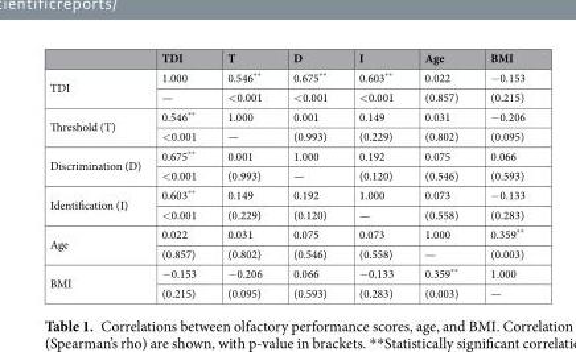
<table><thead><tr><td></td><td>TDI</td><td>T</td><td>D</td><td>I</td><td>Age</td><td>BMI</td></tr></thead><tbody><tr><td rowspan="2">TDI</td><td>1.000</td><td>0.546**</td><td>0.675**</td><td>0.603**</td><td>0.022</td><td>−0.153</td></tr><tr><td>—</td><td>&lt;0.001</td><td>&lt;0.001</td><td>&lt;0.001</td><td>(0.857)</td><td>(0.215)</td></tr><tr><td rowspan="2">Threshold (T)</td><td>0.546**</td><td>1.000</td><td>0.001</td><td>0.149</td><td>0.031</td><td>−0.206</td></tr><tr><td>&lt;0.001</td><td>—</td><td>(0.993)</td><td>(0.229)</td><td>(0.802)</td><td>(0.095)</td></tr><tr><td rowspan="2">Discrimination (D)</td><td>0.675**</td><td>0.001</td><td>1.000</td><td>0.192</td><td>0.075</td><td>0.066</td></tr><tr><td>&lt;0.001</td><td>(0.993)</td><td>—</td><td>(0.120)</td><td>(0.546)</td><td>(0.593)</td></tr><tr><td rowspan="2">Identification (I)</td><td>0.603**</td><td>0.149</td><td>0.192</td><td>1.000</td><td>0.073</td><td>−0.133</td></tr><tr><td>&lt;0.001</td><td>(0.229)</td><td>(0.120)</td><td>—</td><td>(0.558)</td><td>(0.283)</td></tr><tr><td rowspan="2">Age</td><td>0.022</td><td>0.031</td><td>0.075</td><td>0.073</td><td>1.000</td><td>0.359**</td></tr><tr><td>(0.857)</td><td>(0.802)</td><td>(0.546)</td><td>(0.558)</td><td>—</td><td>(0.003)</td></tr><tr><td rowspan="2">BMI</td><td>−0.153</td><td>−0.206</td><td>0.066</td><td>−0.133</td><td>0.359**</td><td>1.000</td></tr><tr><td>(0.215)</td><td>(0.095)</td><td>(0.593)</td><td>(0.283)</td><td>(0.003)</td><td>—</td></tr></tbody></table>